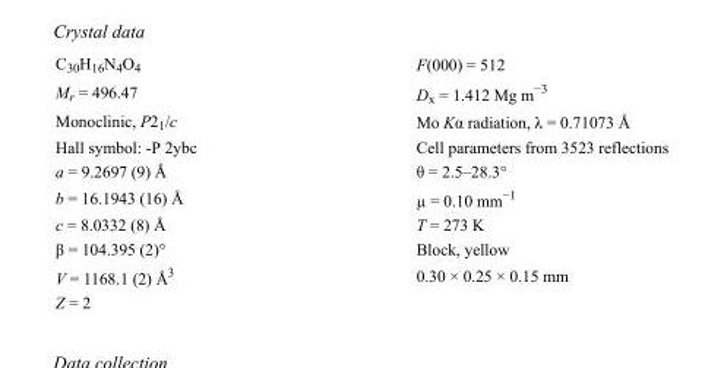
<table><tbody><tr><td>C<sub>30</sub>H<sub>16</sub>N<sub>4</sub>O<sub>4</sub></td><td>F(000) = 512</td></tr><tr><td>M<sub>r</sub> = 496.47</td><td>D<sub>x</sub> = 1.412 Mg m<sup>−3</sup></td></tr><tr><td>Monoclinic, P2<sub>1</sub>/c</td><td>Mo Kα radiation, λ = 0.71073 Å</td></tr><tr><td>Hall symbol: -P 2ybc</td><td>Cell parameters from 3523 reflections</td></tr><tr><td>a = 9.2697 (9) Å</td><td>θ = 2.5–28.3°</td></tr><tr><td>b = 16.1943 (16) Å</td><td>µ = 0.10 mm<sup>−1</sup></td></tr><tr><td>c = 8.0332 (8) Å</td><td>T = 273 K</td></tr><tr><td>β = 104.395 (2)°</td><td>Block, yellow</td></tr><tr><td>V = 1168.1 (2) Å<sup>3</sup></td><td>0.30 × 0.25 × 0.15 mm</td></tr><tr><td>Z = 2</td><td></td></tr></tbody></table>